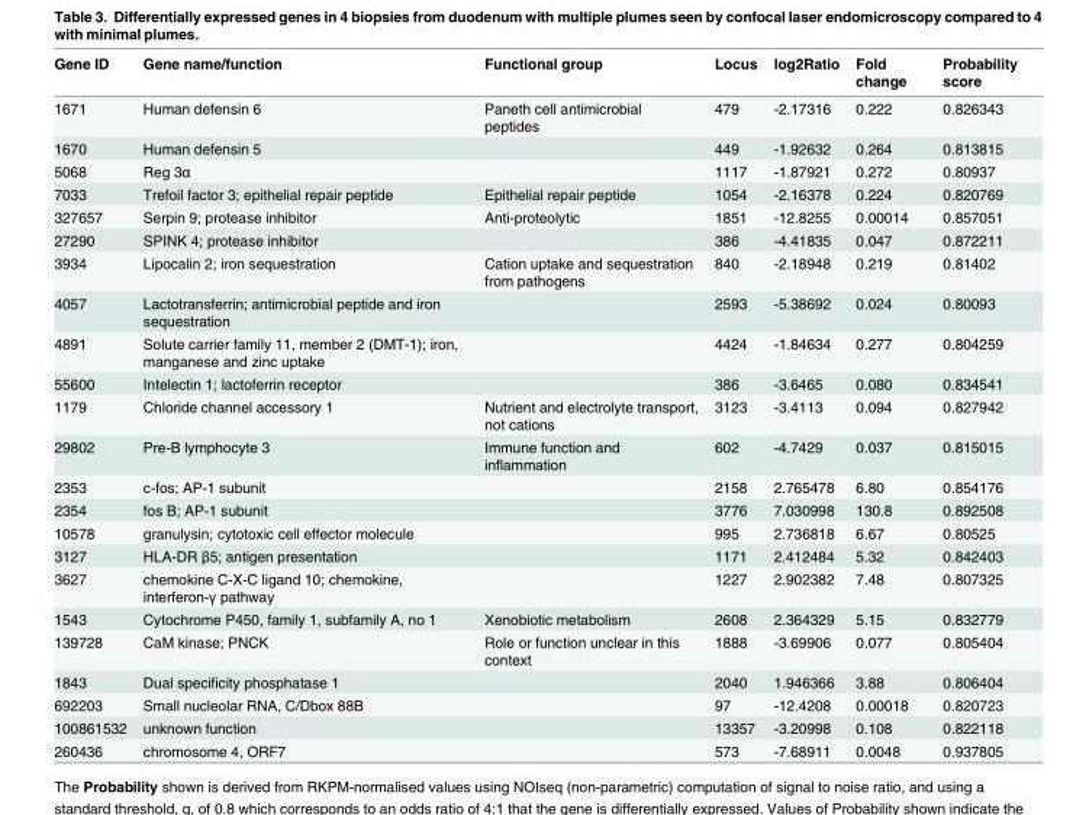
<table><thead><tr><td>Gene ID</td><td>Gene name/function</td><td>Functional group</td><td>Locus</td><td>log2Ratio</td><td>Fold change</td><td>Probability score</td></tr></thead><tbody><tr><td>1671</td><td>Human defensin 6</td><td>Paneth cell antimicrobial peptides</td><td>479</td><td>-2.17316</td><td>0.222</td><td>0.826343</td></tr><tr><td>1670</td><td>Human defensin 5</td><td></td><td>449</td><td>-1.92632</td><td>0.264</td><td>0.813815</td></tr><tr><td>5068</td><td>Reg 3α</td><td></td><td>1117</td><td>-1.87921</td><td>0.272</td><td>0.80937</td></tr><tr><td>7033</td><td>Trefoil factor 3; epithelial repair peptide</td><td>Epithelial repair peptide</td><td>1054</td><td>-2.16378</td><td>0.224</td><td>0.820769</td></tr><tr><td>327657</td><td>Serpin 9; protease inhibitor</td><td>Anti-proteolytic</td><td>1851</td><td>-12.8255</td><td>0.00014</td><td>0.857051</td></tr><tr><td>27290</td><td>SPINK 4; protease inhibitor</td><td></td><td>386</td><td>-4.41835</td><td>0.047</td><td>0.872211</td></tr><tr><td>3934</td><td>Lipocalin 2; iron sequestration</td><td>Cation uptake and sequestration from pathogens</td><td>840</td><td>-2.18948</td><td>0.219</td><td>0.81402</td></tr><tr><td>4057</td><td>Lactotransferrin; antimicrobial peptide and iron sequestration</td><td></td><td>2593</td><td>-5.38692</td><td>0.024</td><td>0.80093</td></tr><tr><td>4891</td><td>Solute carrier family 11, member 2 (DMT-1); iron, manganese and zinc uptake</td><td></td><td>4424</td><td>-1.84634</td><td>0.277</td><td>0.804259</td></tr><tr><td>55600</td><td>Intelectin 1; lactoferrin receptor</td><td></td><td>386</td><td>-3.6465</td><td>0.080</td><td>0.834541</td></tr><tr><td>1179</td><td>Chloride channel accessory 1</td><td>Nutrient and electrolyte transport, not cations</td><td>3123</td><td>-3.4113</td><td>0.094</td><td>0.827942</td></tr><tr><td>29802</td><td>Pre-B lymphocyte 3</td><td>Immune function and inflammation</td><td>602</td><td>-4.7429</td><td>0.037</td><td>0.815015</td></tr><tr><td>2353</td><td>c-fos; AP-1 subunit</td><td></td><td>2158</td><td>2.765478</td><td>6.80</td><td>0.854176</td></tr><tr><td>2354</td><td>fos B; AP-1 subunit</td><td></td><td>3776</td><td>7.030998</td><td>130.8</td><td>0.892508</td></tr><tr><td>10578</td><td>granulysin; cytotoxic cell effector molecule</td><td></td><td>995</td><td>2.736818</td><td>6.67</td><td>0.80525</td></tr><tr><td>3127</td><td>HLA-DR β5; antigen presentation</td><td></td><td>1171</td><td>2.412484</td><td>5.32</td><td>0.842403</td></tr><tr><td>3627</td><td>chemokine C-X-C ligand 10; chemokine, interferon-γ pathway</td><td></td><td>1227</td><td>2.902382</td><td>7.48</td><td>0.807325</td></tr><tr><td>1543</td><td>Cytochrome P450, family 1, subfamily A, no 1</td><td>Xenobiotic metabolism</td><td>2608</td><td>2.364329</td><td>5.15</td><td>0.832779</td></tr><tr><td>139728</td><td>CaM kinase; PNCK</td><td>Role or function unclear in this context</td><td>1888</td><td>-3.69906</td><td>0.077</td><td>0.805404</td></tr><tr><td>1843</td><td>Dual specificity phosphatase 1</td><td></td><td>2040</td><td>1.946366</td><td>3.88</td><td>0.806404</td></tr><tr><td>692203</td><td>Small nucleolar RNA, C/Dbox 88B</td><td></td><td>97</td><td>-12.4208</td><td>0.00018</td><td>0.820723</td></tr><tr><td>100861532</td><td>unknown function</td><td></td><td>13357</td><td>-3.20998</td><td>0.108</td><td>0.822118</td></tr><tr><td>260436</td><td>chromosome 4, ORF7</td><td></td><td>573</td><td>-7.68911</td><td>0.0048</td><td>0.937805</td></tr></tbody></table>